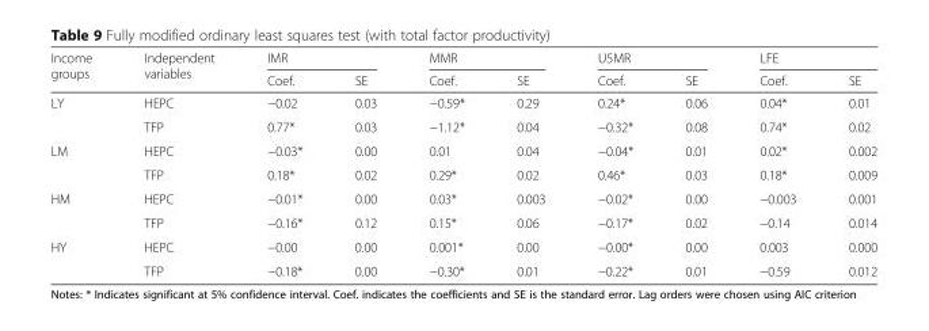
<table><thead><tr><td rowspan="2">Income groups</td><td rowspan="2">Independent variables</td><td colspan="2">IMR</td><td colspan="2">MMR</td><td colspan="2">U5MR</td><td colspan="2">LFE</td></tr><tr><td>Coef.</td><td>SE</td><td>Coef.</td><td>SE</td><td>Coef.</td><td>SE</td><td>Coef.</td><td>SE</td></tr></thead><tbody><tr><td rowspan="2">LY</td><td>HEPC</td><td>−0.02</td><td>0.03</td><td>−0.59*</td><td>0.29</td><td>0.24*</td><td>0.06</td><td>0.04*</td><td>0.01</td></tr><tr><td>TFP</td><td>0.77*</td><td>0.03</td><td>−1.12*</td><td>0.04</td><td>−0.32*</td><td>0.08</td><td>0.74*</td><td>0.02</td></tr><tr><td rowspan="2">LM</td><td>HEPC</td><td>−0.03*</td><td>0.00</td><td>0.01</td><td>0.04</td><td>−0.04*</td><td>0.01</td><td>0.02*</td><td>0.002</td></tr><tr><td>TFP</td><td>0.18*</td><td>0.02</td><td>0.29*</td><td>0.02</td><td>0.46*</td><td>0.03</td><td>0.18*</td><td>0.009</td></tr><tr><td rowspan="2">HM</td><td>HEPC</td><td>−0.01*</td><td>0.00</td><td>0.03*</td><td>0.003</td><td>−0.02*</td><td>0.00</td><td>−0.003</td><td>0.001</td></tr><tr><td>TFP</td><td>−0.16*</td><td>0.12</td><td>0.15*</td><td>0.06</td><td>−0.17*</td><td>0.02</td><td>−0.14</td><td>0.014</td></tr><tr><td rowspan="2">HY</td><td>HEPC</td><td>−0.00</td><td>0.00</td><td>0.001*</td><td>0.00</td><td>−0.00*</td><td>0.00</td><td>0.003</td><td>0.000</td></tr><tr><td>TFP</td><td>−0.18*</td><td>0.00</td><td>−0.30*</td><td>0.01</td><td>−0.22*</td><td>0.01</td><td>−0.59</td><td>0.012</td></tr></tbody></table>